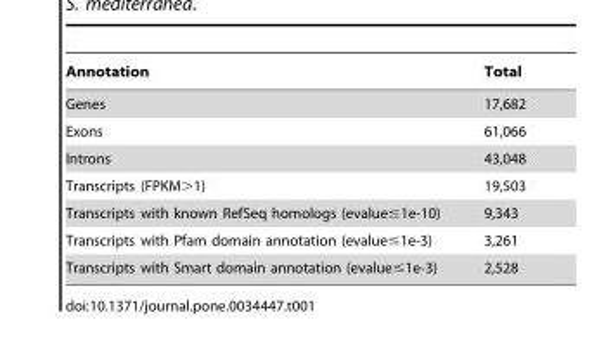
<table><thead><tr><td>Annotation</td><td>Total</td></tr></thead><tbody><tr><td>Genes</td><td>17,682</td></tr><tr><td>Exons</td><td>61,066</td></tr><tr><td>Introns</td><td>43,048</td></tr><tr><td>Transcripts (FPKM&gt;1)</td><td>19,503</td></tr><tr><td>Transcripts with known RefSeq homologs (evalue≤1e-10)</td><td>9,343</td></tr><tr><td>Transcripts with Pfam domain annotation (evalue≤1e-3)</td><td>3,261</td></tr><tr><td>Transcripts with Smart domain annotation (evalue≤1e-3)</td><td>2,528</td></tr></tbody></table>